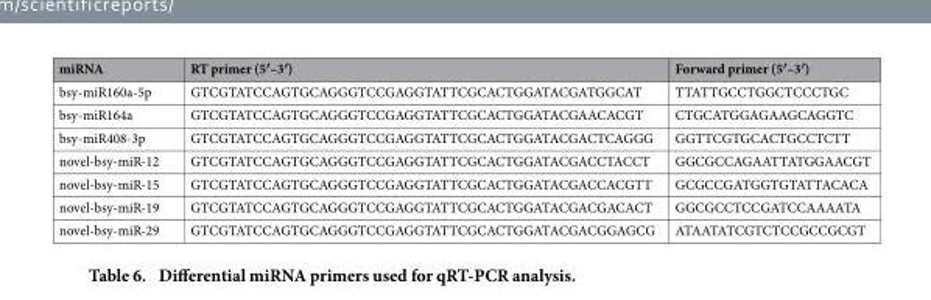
<table><thead><tr><td>miRNA</td><td>RT primer (5′–3′)</td><td>Forward primer (5′–3′)</td></tr></thead><tbody><tr><td>bsy-miR160a-5p</td><td>GTCGTATCCAGTGCAGGGTCCGAGGTATTCGCACTGGATACGATGGCAT</td><td>TTATTGCCTGGCTCCCTGC</td></tr><tr><td>bsy-miR164a</td><td>GTCGTATCCAGTGCAGGGTCCGAGGTATTCGCACTGGATACGAACACGT</td><td>CTGCATGGAGAAGCAGGTC</td></tr><tr><td>bsy-miR408-3p</td><td>GTCGTATCCAGTGCAGGGTCCGAGGTATTCGCACTGGATACGACTCAGGG</td><td>GGTTCGTGCACTGCCTCTT</td></tr><tr><td>novel-bsy-miR-12</td><td>GTCGTATCCAGTGCAGGGTCCGAGGTATTCGCACTGGATACGACCTACCT</td><td>GGCGCCAGAATTATGGAACGT</td></tr><tr><td>novel-bsy-miR-15</td><td>GTCGTATCCAGTGCAGGGTCCGAGGTATTCGCACTGGATACGACCACGTT</td><td>GCGCCGATGGTGTATTACACA</td></tr><tr><td>novel-bsy-miR-19</td><td>GTCGTATCCAGTGCAGGGTCCGAGGTATTCGCACTGGATACGACGACACT</td><td>GGCGCCTCCGATCCAAAATA</td></tr><tr><td>novel-bsy-miR-29</td><td>GTCGTATCCAGTGCAGGGTCCGAGGTATTCGCACTGGATACGACGGAGCG</td><td>ATAATATCGTCTCCGCCGCGT</td></tr></tbody></table>